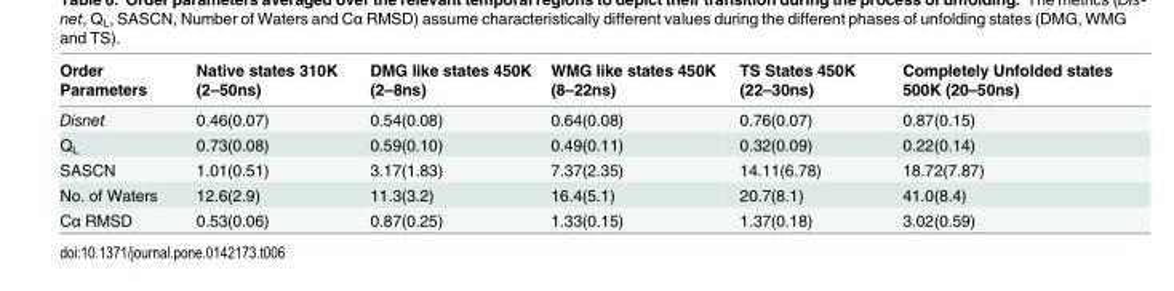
<table><thead><tr><td>Order Parameters</td><td>Native states 310K (2–50ns)</td><td>DMG like states 450K (2–8ns)</td><td>WMG like states 450K (8–22ns)</td><td>TS States 450K (22–30ns)</td><td>Completely Unfolded states 500K (20–50ns)</td></tr></thead><tbody><tr><td>Disnet</td><td>0.46(0.07)</td><td>0.54(0.08)</td><td>0.64(0.08)</td><td>0.76(0.07)</td><td>0.87(0.15)</td></tr><tr><td>Q<sub>L</sub></td><td>0.73(0.08)</td><td>0.59(0.10)</td><td>0.49(0.11)</td><td>0.32(0.09)</td><td>0.22(0.14)</td></tr><tr><td>SASCN</td><td>1.01(0.51)</td><td>3.17(1.83)</td><td>7.37(2.35)</td><td>14.11(6.78)</td><td>18.72(7.87)</td></tr><tr><td>No. of Waters</td><td>12.6(2.9)</td><td>11.3(3.2)</td><td>16.4(5.1)</td><td>20.7(8.1)</td><td>41.0(8.4)</td></tr><tr><td>Cα RMSD</td><td>0.53(0.06)</td><td>0.87(0.25)</td><td>1.33(0.15)</td><td>1.37(0.18)</td><td>3.02(0.59)</td></tr></tbody></table>